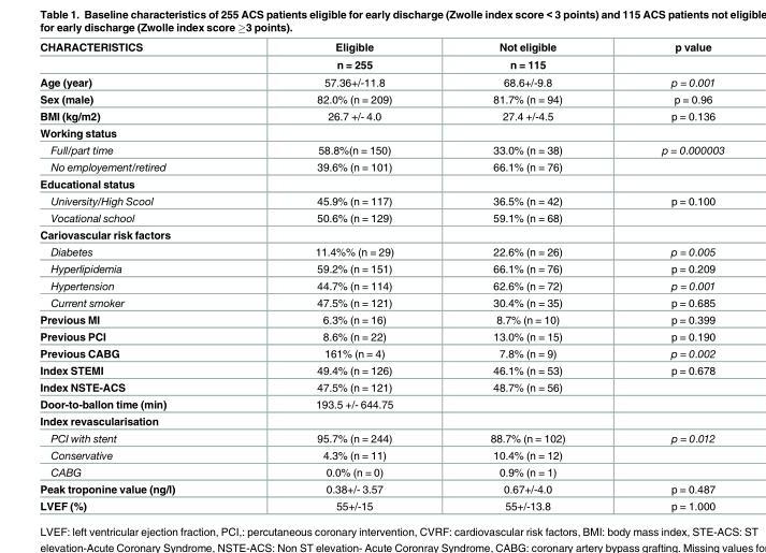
<table><thead><tr><td rowspan="2">CHARACTERISTICS</td><td rowspan="2">Eligible n = 255</td><td rowspan="2">Not eligible n = 115</td><td rowspan="2">p value</td></tr><tr></tr></thead><tbody><tr><td>Age (year)</td><td>57.36+/-11.8</td><td>68.6+/-9.8</td><td>p = 0.001</td></tr><tr><td>Sex (male)</td><td>82.0% (n = 209)</td><td>81.7% (n = 94)</td><td>p = 0.96</td></tr><tr><td>BMI (kg/m2)</td><td>26.7 +/- 4.0</td><td>27.4 +/-4.5</td><td>p = 0.136</td></tr><tr><td colspan="4">Working status</td></tr><tr><td>Full/part time</td><td>58.8%(n = 150)</td><td>33.0% (n = 38)</td><td>p = 0.000003</td></tr><tr><td>No employement/retired</td><td>39.6% (n = 101)</td><td>66.1% (n = 76)</td><td></td></tr><tr><td colspan="4">Educational status</td></tr><tr><td>University/High Scool</td><td>45.9% (n = 117)</td><td>36.5% (n = 42)</td><td>p = 0.100</td></tr><tr><td>Vocational school</td><td>50.6% (n = 129)</td><td>59.1% (n = 68)</td><td></td></tr><tr><td colspan="4">Cariovascular risk factors</td></tr><tr><td>Diabetes</td><td>11.4%% (n = 29)</td><td>22.6% (n = 26)</td><td>p = 0.005</td></tr><tr><td>Hyperlipidemia</td><td>59.2% (n = 151)</td><td>66.1% (n = 76)</td><td>p = 0.209</td></tr><tr><td>Hypertension</td><td>44.7% (n = 114)</td><td>62.6% (n = 72)</td><td>p = 0.001</td></tr><tr><td>Current smoker</td><td>47.5% (n = 121)</td><td>30.4% (n = 35)</td><td>p = 0.685</td></tr><tr><td>Previous MI</td><td>6.3% (n = 16)</td><td>8.7% (n = 10)</td><td>p = 0.399</td></tr><tr><td>Previous PCI</td><td>8.6% (n = 22)</td><td>13.0% (n = 15)</td><td>p = 0.190</td></tr><tr><td>Previous CABG</td><td>161% (n = 4)</td><td>7.8% (n = 9)</td><td>p = 0.002</td></tr><tr><td>Index STEMI</td><td>49.4% (n = 126)</td><td>46.1% (n = 53)</td><td>p = 0.678</td></tr><tr><td>Index NSTE-ACS</td><td>47.5% (n = 121)</td><td>48.7% (n = 56)</td><td></td></tr><tr><td>Door-to-ballon time (min)</td><td>193.5 +/- 644.75</td><td></td><td></td></tr><tr><td colspan="4">Index revascularisation</td></tr><tr><td>PCI with stent</td><td>95.7% (n = 244)</td><td>88.7% (n = 102)</td><td>p = 0.012</td></tr><tr><td>Conservative</td><td>4.3% (n = 11)</td><td>10.4% (n = 12)</td><td></td></tr><tr><td>CABG</td><td>0.0% (n = 0)</td><td>0.9% (n = 1)</td><td></td></tr><tr><td>Peak troponine value (ng/l)</td><td>0.38+/- 3.57</td><td>0.67+/-4.0</td><td>p = 0.487</td></tr><tr><td>LVEF (%)</td><td>55+/-15</td><td>55+/-13.8</td><td>p = 1.000</td></tr></tbody></table>